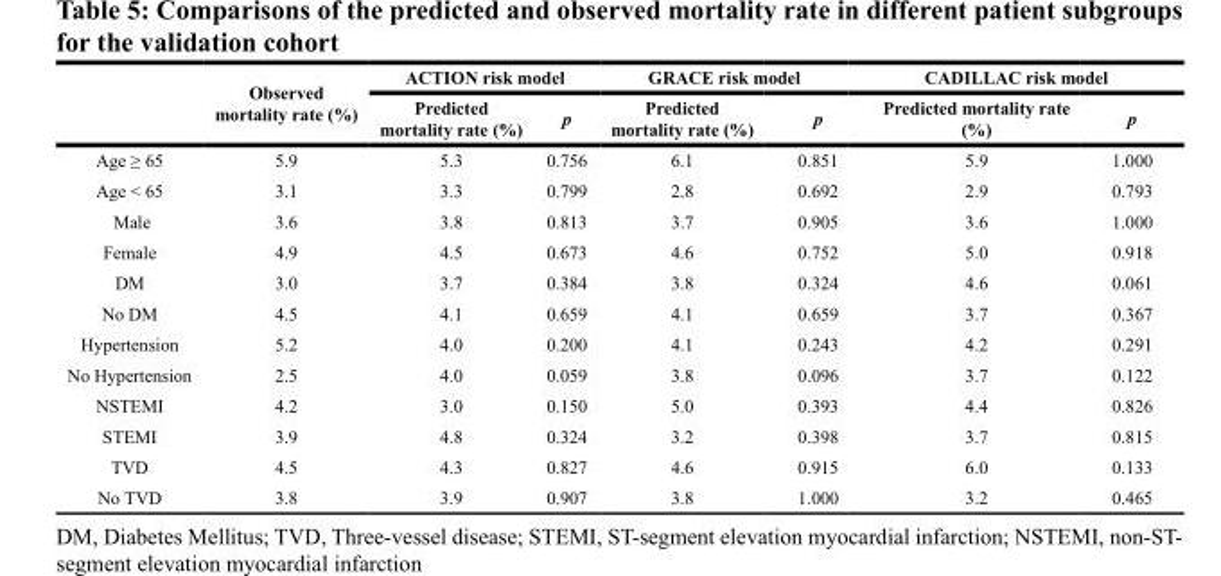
<table><thead><tr><td rowspan="2"></td><td rowspan="2">Observed mortality rate (%)</td><td colspan="2">ACTION risk model</td><td colspan="2">GRACE risk model</td><td colspan="2">CADILLAC risk model</td></tr><tr><td>Predicted mortality rate (%)</td><td>p</td><td>Predicted mortality rate (%)</td><td>p</td><td>Predicted mortality rate (%)</td><td>p</td></tr></thead><tbody><tr><td>Age ≥ 65</td><td>5.9</td><td>5.3</td><td>0.756</td><td>6.1</td><td>0.851</td><td>5.9</td><td>1.000</td></tr><tr><td>Age &lt; 65</td><td>3.1</td><td>3.3</td><td>0.799</td><td>2.8</td><td>0.692</td><td>2.9</td><td>0.793</td></tr><tr><td>Male</td><td>3.6</td><td>3.8</td><td>0.813</td><td>3.7</td><td>0.905</td><td>3.6</td><td>1.000</td></tr><tr><td>Female</td><td>4.9</td><td>4.5</td><td>0.673</td><td>4.6</td><td>0.752</td><td>5.0</td><td>0.918</td></tr><tr><td>DM</td><td>3.0</td><td>3.7</td><td>0.384</td><td>3.8</td><td>0.324</td><td>4.6</td><td>0.061</td></tr><tr><td>No DM</td><td>4.5</td><td>4.1</td><td>0.659</td><td>4.1</td><td>0.659</td><td>3.7</td><td>0.367</td></tr><tr><td>Hypertension</td><td>5.2</td><td>4.0</td><td>0.200</td><td>4.1</td><td>0.243</td><td>4.2</td><td>0.291</td></tr><tr><td>No Hypertension</td><td>2.5</td><td>4.0</td><td>0.059</td><td>3.8</td><td>0.096</td><td>3.7</td><td>0.122</td></tr><tr><td>NSTEMI</td><td>4.2</td><td>3.0</td><td>0.150</td><td>5.0</td><td>0.393</td><td>4.4</td><td>0.826</td></tr><tr><td>STEMI</td><td>3.9</td><td>4.8</td><td>0.324</td><td>3.2</td><td>0.398</td><td>3.7</td><td>0.815</td></tr><tr><td>TVD</td><td>4.5</td><td>4.3</td><td>0.827</td><td>4.6</td><td>0.915</td><td>6.0</td><td>0.133</td></tr><tr><td>No TVD</td><td>3.8</td><td>3.9</td><td>0.907</td><td>3.8</td><td>1.000</td><td>3.2</td><td>0.465</td></tr></tbody></table>